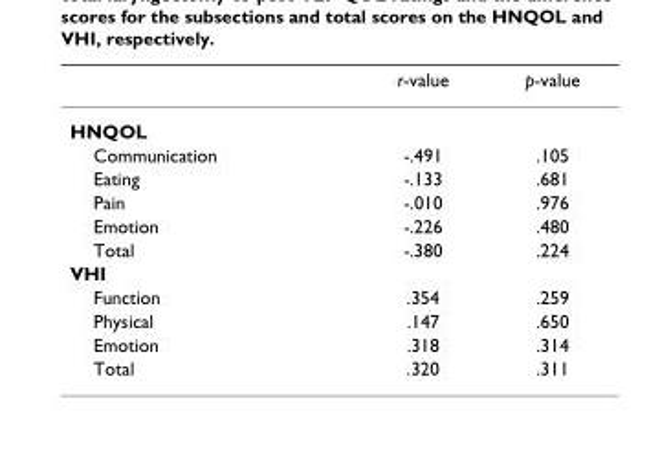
<table><thead><tr><td></td><td>r-value</td><td>p-value</td></tr></thead><tbody><tr><td colspan="3">HNQOL</td></tr><tr><td>Communication</td><td>-.491</td><td>.105</td></tr><tr><td>Eating</td><td>-.133</td><td>.681</td></tr><tr><td>Pain</td><td>-.010</td><td>.976</td></tr><tr><td>Emotion</td><td>-.226</td><td>.480</td></tr><tr><td>Total</td><td>-.380</td><td>.224</td></tr><tr><td colspan="3">VHI</td></tr><tr><td>Function</td><td>.354</td><td>.259</td></tr><tr><td>Physical</td><td>.147</td><td>.650</td></tr><tr><td>Emotion</td><td>.318</td><td>.314</td></tr><tr><td>Total</td><td>.320</td><td>.311</td></tr></tbody></table>